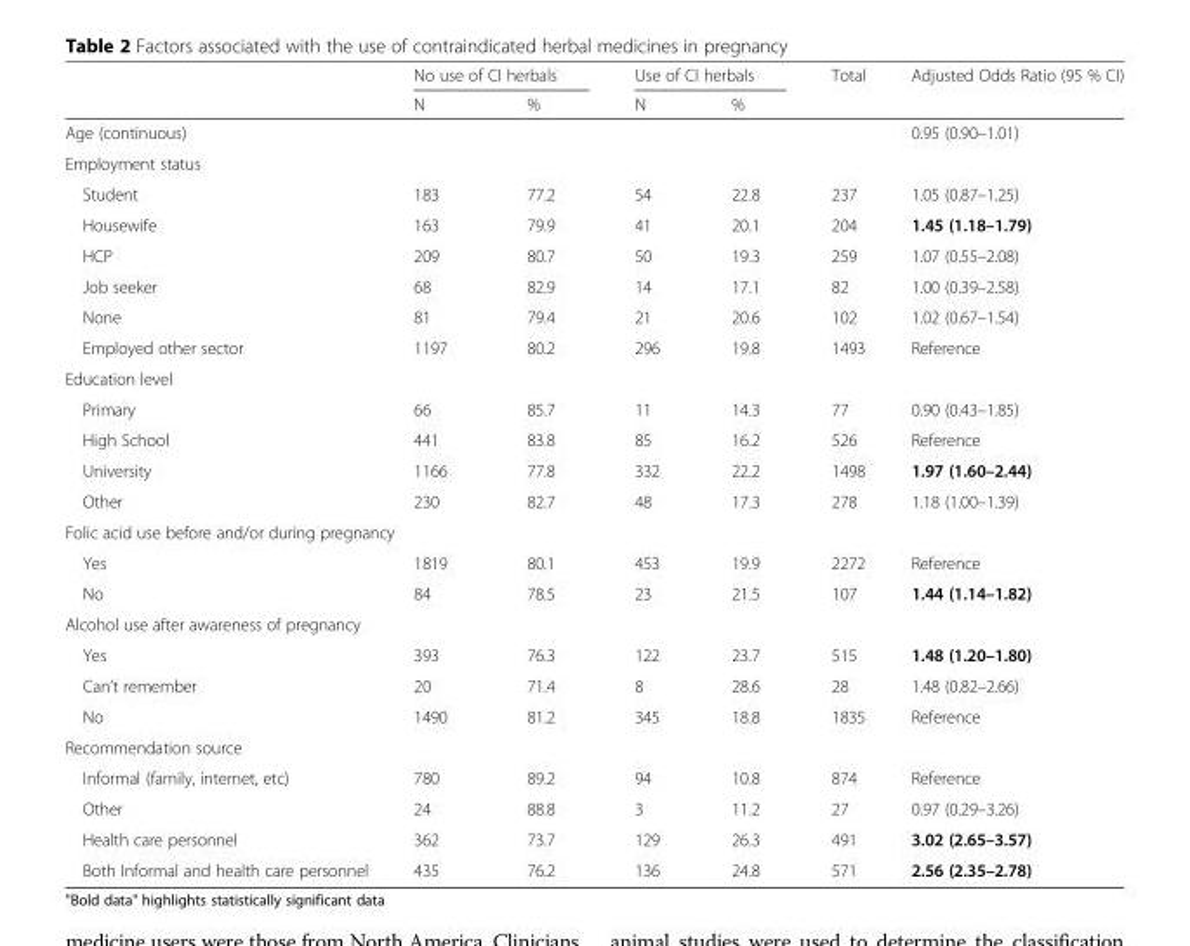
<table><thead><tr><td rowspan="2"></td><td colspan="2">No use of CI herbals</td><td colspan="2">Use of CI herbals</td><td rowspan="2">Total</td><td rowspan="2">Adjusted Odds Ratio (95 % CI)</td></tr><tr><td>N</td><td>%</td><td>N</td><td>%</td></tr></thead><tbody><tr><td>Age (continuous)</td><td></td><td></td><td></td><td></td><td></td><td>0.95 (0.90–1.01)</td></tr><tr><td colspan="7">Employment status</td></tr><tr><td>Student</td><td>183</td><td>77.2</td><td>54</td><td>22.8</td><td>237</td><td>1.05 (0.87–1.25)</td></tr><tr><td>Housewife</td><td>163</td><td>79.9</td><td>41</td><td>20.1</td><td>204</td><td>1.45 (1.18–1.79)</td></tr><tr><td>HCP</td><td>209</td><td>80.7</td><td>50</td><td>19.3</td><td>259</td><td>1.07 (0.55–2.08)</td></tr><tr><td>Job seeker</td><td>68</td><td>82.9</td><td>14</td><td>17.1</td><td>82</td><td>1.00 (0.39–2.58)</td></tr><tr><td>None</td><td>81</td><td>79.4</td><td>21</td><td>20.6</td><td>102</td><td>1.02 (0.67–1.54)</td></tr><tr><td>Employed other sector</td><td>1197</td><td>80.2</td><td>296</td><td>19.8</td><td>1493</td><td>Reference</td></tr><tr><td colspan="7">Education level</td></tr><tr><td>Primary</td><td>66</td><td>85.7</td><td>11</td><td>14.3</td><td>77</td><td>0.90 (0.43–1.85)</td></tr><tr><td>High School</td><td>441</td><td>83.8</td><td>85</td><td>16.2</td><td>526</td><td>Reference</td></tr><tr><td>University</td><td>1166</td><td>77.8</td><td>332</td><td>22.2</td><td>1498</td><td>1.97 (1.60–2.44)</td></tr><tr><td>Other</td><td>230</td><td>82.7</td><td>48</td><td>17.3</td><td>278</td><td>1.18 (1.00–1.39)</td></tr><tr><td colspan="7">Folic acid use before and/or during pregnancy</td></tr><tr><td>Yes</td><td>1819</td><td>80.1</td><td>453</td><td>19.9</td><td>2272</td><td>Reference</td></tr><tr><td>No</td><td>84</td><td>78.5</td><td>23</td><td>21.5</td><td>107</td><td>1.44 (1.14–1.82)</td></tr><tr><td colspan="7">Alcohol use after awareness of pregnancy</td></tr><tr><td>Yes</td><td>393</td><td>76.3</td><td>122</td><td>23.7</td><td>515</td><td>1.48 (1.20–1.80)</td></tr><tr><td>Can’t remember</td><td>20</td><td>71.4</td><td>8</td><td>28.6</td><td>28</td><td>1.48 (0.82–2.66)</td></tr><tr><td>No</td><td>1490</td><td>81.2</td><td>345</td><td>18.8</td><td>1835</td><td>Reference</td></tr><tr><td colspan="7">Recommendation source</td></tr><tr><td>Informal (family, internet, etc)</td><td>780</td><td>89.2</td><td>94</td><td>10.8</td><td>874</td><td>Reference</td></tr><tr><td>Other</td><td>24</td><td>88.8</td><td>3</td><td>11.2</td><td>27</td><td>0.97 (0.29–3.26)</td></tr><tr><td>Health care personnel</td><td>362</td><td>73.7</td><td>129</td><td>26.3</td><td>491</td><td>3.02 (2.65–3.57)</td></tr><tr><td>Both Informal and health care personnel</td><td>435</td><td>76.2</td><td>136</td><td>24.8</td><td>571</td><td>2.56 (2.35–2.78)</td></tr></tbody></table>